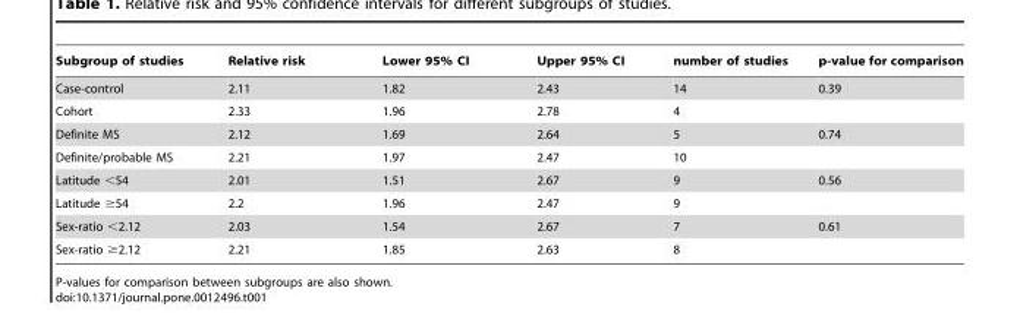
<table><thead><tr><td>Subgroup of studies</td><td>Relative risk</td><td>Lower 95% CI</td><td>Upper 95% CI</td><td>number of studies</td><td>p-value for comparison</td></tr></thead><tbody><tr><td>Case-control</td><td>2.11</td><td>1.82</td><td>2.43</td><td>14</td><td>0.39</td></tr><tr><td>Cohort</td><td>2.33</td><td>1.96</td><td>2.78</td><td>4</td><td></td></tr><tr><td>Definite MS</td><td>2.12</td><td>1.69</td><td>2.64</td><td>5</td><td>0.74</td></tr><tr><td>Definite/probable MS</td><td>2.21</td><td>1.97</td><td>2.47</td><td>10</td><td></td></tr><tr><td>Latitude &lt;54</td><td>2.01</td><td>1.51</td><td>2.67</td><td>9</td><td>0.56</td></tr><tr><td>Latitude ≥54</td><td>2.2</td><td>1.96</td><td>2.47</td><td>9</td><td></td></tr><tr><td>Sex-ratio &lt;2.12</td><td>2.03</td><td>1.54</td><td>2.67</td><td>7</td><td>0.61</td></tr><tr><td>Sex-ratio ≥2.12</td><td>2.21</td><td>1.85</td><td>2.63</td><td>8</td><td></td></tr></tbody></table>